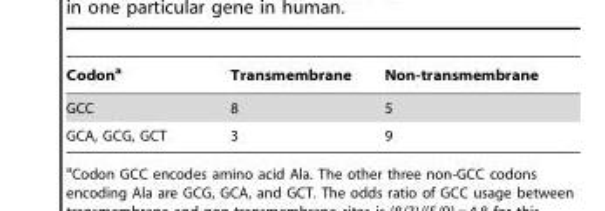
<table><thead><tr><td>Codon<sup>a</sup></td><td>Transmembrane</td><td>Non-transmembrane</td></tr></thead><tbody><tr><td>GCC</td><td>8</td><td>5</td></tr><tr><td>GCA, GCG, GCT</td><td>3</td><td>9</td></tr></tbody></table>